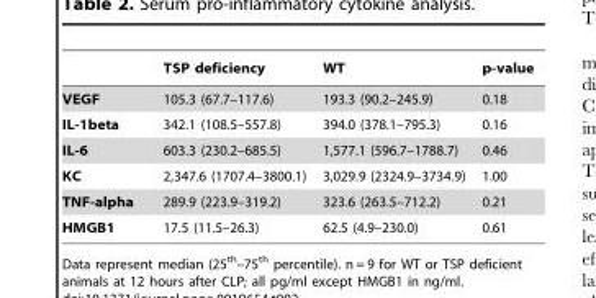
<table><thead><tr><td></td><td>TSP deficiency</td><td>WT</td><td>p-value</td></tr></thead><tbody><tr><td>VEGF</td><td>105.3 (67.7–117.6)</td><td>193.3 (90.2–245.9)</td><td>0.18</td></tr><tr><td>IL-1beta</td><td>342.1 (108.5–557.8)</td><td>394.0 (378.1–795.3)</td><td>0.16</td></tr><tr><td>IL-6</td><td>603.3 (230.2–685.5)</td><td>1,577.1 (596.7–1788.7)</td><td>0.46</td></tr><tr><td>KC</td><td>2,347.6 (1707.4–3800.1)</td><td>3,029.9 (2324.9–3734.9)</td><td>1.00</td></tr><tr><td>TNF-alpha</td><td>289.9 (223.9–319.2)</td><td>323.6 (263.5–712.2)</td><td>0.21</td></tr><tr><td>HMGB1</td><td>17.5 (11.5–26.3)</td><td>62.5 (4.9–230.0)</td><td>0.61</td></tr></tbody></table>